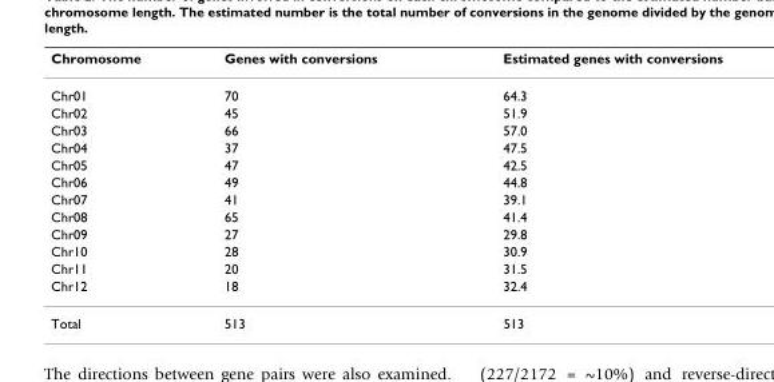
<table><thead><tr><td>Chromosome</td><td>Genes with conversions</td><td>Estimated genes with conversions</td></tr></thead><tbody><tr><td>Chr01</td><td>70</td><td>64.3</td></tr><tr><td>Chr02</td><td>45</td><td>51.9</td></tr><tr><td>Chr03</td><td>66</td><td>57.0</td></tr><tr><td>Chr04</td><td>37</td><td>47.5</td></tr><tr><td>Chr05</td><td>47</td><td>42.5</td></tr><tr><td>Chr06</td><td>49</td><td>44.8</td></tr><tr><td>Chr07</td><td>41</td><td>39.1</td></tr><tr><td>Chr08</td><td>65</td><td>41.4</td></tr><tr><td>Chr09</td><td>27</td><td>29.8</td></tr><tr><td>Chr10</td><td>28</td><td>30.9</td></tr><tr><td>Chr11</td><td>20</td><td>31.5</td></tr><tr><td>Chr12</td><td>18</td><td>32.4</td></tr><tr><td>Total</td><td>513</td><td>513</td></tr></tbody></table>